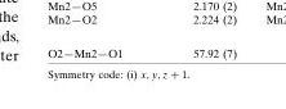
<table><tbody><tr><td>O2—Mn2—O1</td><td>57.92 (7)</td></tr></tbody></table>